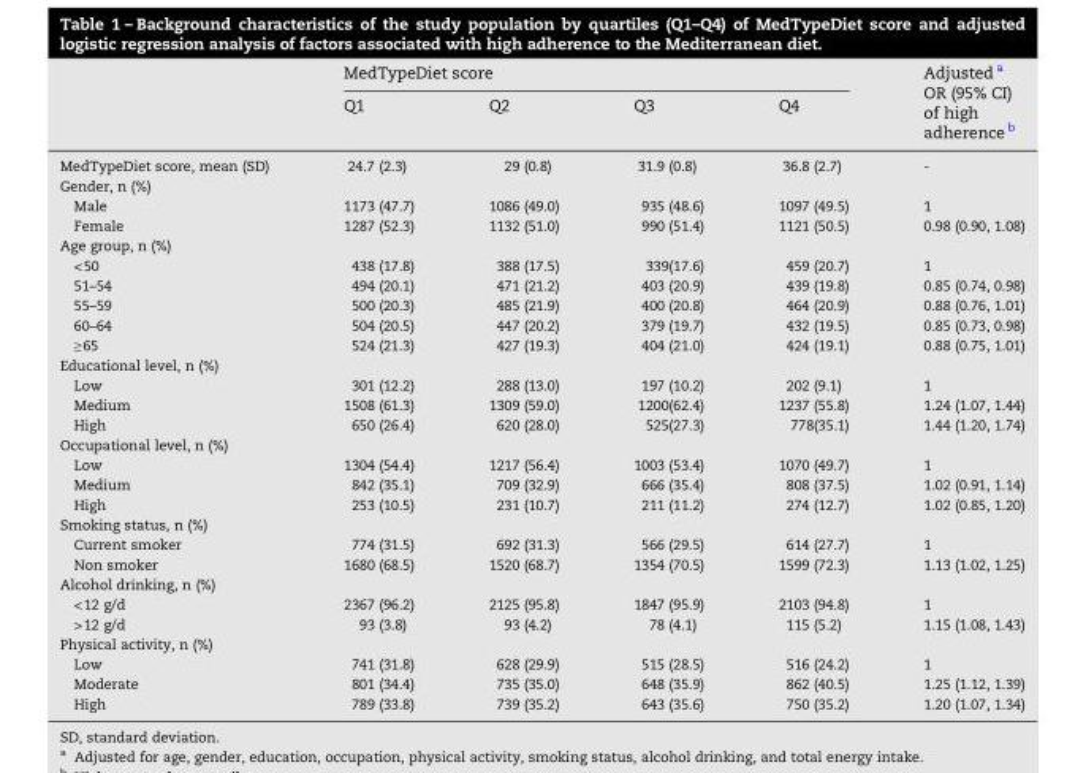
<table><thead><tr><td rowspan="2"></td><td colspan="4">MedTypeDiet score</td><td rowspan="2">Adjusted <sup>a</sup> OR (95% CI) of high adherence <sup>b</sup></td></tr><tr><td>Q1</td><td>Q2</td><td>Q3</td><td>Q4</td></tr></thead><tbody><tr><td>MedTypeDiet score, mean (SD)</td><td>24.7 (2.3)</td><td>29 (0.8)</td><td>31.9 (0.8)</td><td>36.8 (2.7)</td><td>-</td></tr><tr><td colspan="6">Gender, n (%)</td></tr><tr><td>Male</td><td>1173 (47.7)</td><td>1086 (49.0)</td><td>935 (48.6)</td><td>1097 (49.5)</td><td>1</td></tr><tr><td>Female</td><td>1287 (52.3)</td><td>1132 (51.0)</td><td>990 (51.4)</td><td>1121 (50.5)</td><td>0.98 (0.90, 1.08)</td></tr><tr><td colspan="6">Age group, n (%)</td></tr><tr><td>&lt;50</td><td>438 (17.8)</td><td>388 (17.5)</td><td>339(17.6)</td><td>459 (20.7)</td><td>1</td></tr><tr><td>51–54</td><td>494 (20.1)</td><td>471 (21.2)</td><td>403 (20.9)</td><td>439 (19.8)</td><td>0.85 (0.74, 0.98)</td></tr><tr><td>55–59</td><td>500 (20.3)</td><td>485 (21.9)</td><td>400 (20.8)</td><td>464 (20.9)</td><td>0.88 (0.76, 1.01)</td></tr><tr><td>60–64</td><td>504 (20.5)</td><td>447 (20.2)</td><td>379 (19.7)</td><td>432 (19.5)</td><td>0.85 (0.73, 0.98)</td></tr><tr><td>≥65</td><td>524 (21.3)</td><td>427 (19.3)</td><td>404 (21.0)</td><td>424 (19.1)</td><td>0.88 (0.75, 1.01)</td></tr><tr><td colspan="6">Educational level, n (%)</td></tr><tr><td>Low</td><td>301 (12.2)</td><td>288 (13.0)</td><td>197 (10.2)</td><td>202 (9.1)</td><td>1</td></tr><tr><td>Medium</td><td>1508 (61.3)</td><td>1309 (59.0)</td><td>1200(62.4)</td><td>1237 (55.8)</td><td>1.24 (1.07, 1.44)</td></tr><tr><td>High</td><td>650 (26.4)</td><td>620 (28.0)</td><td>525(27.3)</td><td>778(35.1)</td><td>1.44 (1.20, 1.74)</td></tr><tr><td colspan="6">Occupational level, n (%)</td></tr><tr><td>Low</td><td>1304 (54.4)</td><td>1217 (56.4)</td><td>1003 (53.4)</td><td>1070 (49.7)</td><td>1</td></tr><tr><td>Medium</td><td>842 (35.1)</td><td>709 (32.9)</td><td>666 (35.4)</td><td>808 (37.5)</td><td>1.02 (0.91, 1.14)</td></tr><tr><td>High</td><td>253 (10.5)</td><td>231 (10.7)</td><td>211 (11.2)</td><td>274 (12.7)</td><td>1.02 (0.85, 1.20)</td></tr><tr><td colspan="6">Smoking status, n (%)</td></tr><tr><td>Current smoker</td><td>774 (31.5)</td><td>692 (31.3)</td><td>566 (29.5)</td><td>614 (27.7)</td><td>1</td></tr><tr><td>Non smoker</td><td>1680 (68.5)</td><td>1520 (68.7)</td><td>1354 (70.5)</td><td>1599 (72.3)</td><td>1.13 (1.02, 1.25)</td></tr><tr><td colspan="6">Alcohol drinking, n (%)</td></tr><tr><td>&lt;12 g/d</td><td>2367 (96.2)</td><td>2125 (95.8)</td><td>1847 (95.9)</td><td>2103 (94.8)</td><td>1</td></tr><tr><td>&gt;12 g/d</td><td>93 (3.8)</td><td>93 (4.2)</td><td>78 (4.1)</td><td>115 (5.2)</td><td>1.15 (1.08, 1.43)</td></tr><tr><td colspan="6">Physical activity, n (%)</td></tr><tr><td>Low</td><td>741 (31.8)</td><td>628 (29.9)</td><td>515 (28.5)</td><td>516 (24.2)</td><td>1</td></tr><tr><td>Moderate</td><td>801 (34.4)</td><td>735 (35.0)</td><td>648 (35.9)</td><td>862 (40.5)</td><td>1.25 (1.12, 1.39)</td></tr><tr><td>High</td><td>789 (33.8)</td><td>739 (35.2)</td><td>643 (35.6)</td><td>750 (35.2)</td><td>1.20 (1.07, 1.34)</td></tr></tbody></table>